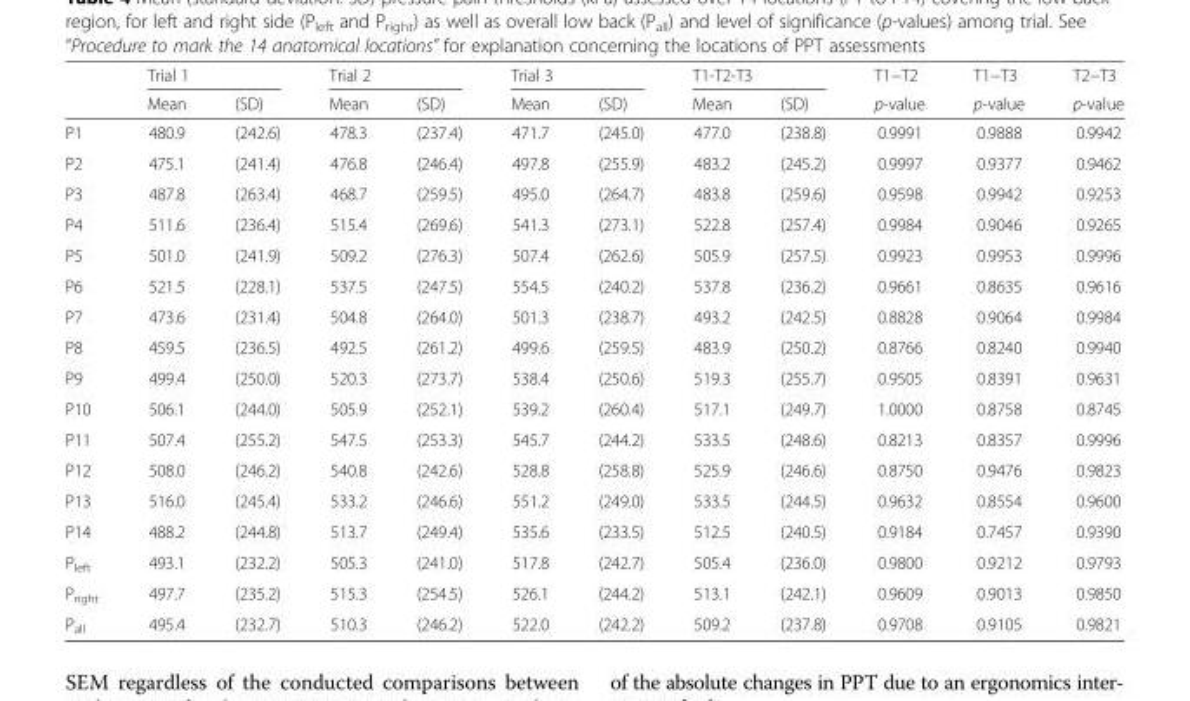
<table><thead><tr><td rowspan="2"></td><td colspan="2">Trial 1</td><td colspan="2">Trial 2</td><td colspan="2">Trial 3</td><td colspan="2">T1-T2-T3</td><td rowspan="2">T1−T2 p-value</td><td rowspan="2">T1−T3 p-value</td><td rowspan="2">T2−T3 p-value</td></tr><tr><td>Mean</td><td>(SD)</td><td>Mean</td><td>(SD)</td><td>Mean</td><td>(SD)</td><td>Mean</td><td>(SD)</td></tr></thead><tbody><tr><td>P1</td><td>480.9</td><td>(242.6)</td><td>478.3</td><td>(237.4)</td><td>471.7</td><td>(245.0)</td><td>477.0</td><td>(238.8)</td><td>0.9991</td><td>0.9888</td><td>0.9942</td></tr><tr><td>P2</td><td>475.1</td><td>(241.4)</td><td>476.8</td><td>(246.4)</td><td>497.8</td><td>(255.9)</td><td>483.2</td><td>(245.2)</td><td>0.9997</td><td>0.9377</td><td>0.9462</td></tr><tr><td>P3</td><td>487.8</td><td>(263.4)</td><td>468.7</td><td>(259.5)</td><td>495.0</td><td>(264.7)</td><td>483.8</td><td>(259.6)</td><td>0.9598</td><td>0.9942</td><td>0.9253</td></tr><tr><td>P4</td><td>511.6</td><td>(236.4)</td><td>515.4</td><td>(269.6)</td><td>541.3</td><td>(273.1)</td><td>522.8</td><td>(257.4)</td><td>0.9984</td><td>0.9046</td><td>0.9265</td></tr><tr><td>P5</td><td>501.0</td><td>(241.9)</td><td>509.2</td><td>(276.3)</td><td>507.4</td><td>(262.6)</td><td>505.9</td><td>(257.5)</td><td>0.9923</td><td>0.9953</td><td>0.9996</td></tr><tr><td>P6</td><td>521.5</td><td>(228.1)</td><td>537.5</td><td>(247.5)</td><td>554.5</td><td>(240.2)</td><td>537.8</td><td>(236.2)</td><td>0.9661</td><td>0.8635</td><td>0.9616</td></tr><tr><td>P7</td><td>473.6</td><td>(231.4)</td><td>504.8</td><td>(264.0)</td><td>501.3</td><td>(238.7)</td><td>493.2</td><td>(242.5)</td><td>0.8828</td><td>0.9064</td><td>0.9984</td></tr><tr><td>P8</td><td>459.5</td><td>(236.5)</td><td>492.5</td><td>(261.2)</td><td>499.6</td><td>(259.5)</td><td>483.9</td><td>(250.2)</td><td>0.8766</td><td>0.8240</td><td>0.9940</td></tr><tr><td>P9</td><td>499.4</td><td>(250.0)</td><td>520.3</td><td>(273.7)</td><td>538.4</td><td>(250.6)</td><td>519.3</td><td>(255.7)</td><td>0.9505</td><td>0.8391</td><td>0.9631</td></tr><tr><td>P10</td><td>506.1</td><td>(244.0)</td><td>505.9</td><td>(252.1)</td><td>539.2</td><td>(260.4)</td><td>517.1</td><td>(249.7)</td><td>1.0000</td><td>0.8758</td><td>0.8745</td></tr><tr><td>P11</td><td>507.4</td><td>(255.2)</td><td>547.5</td><td>(253.3)</td><td>545.7</td><td>(244.2)</td><td>533.5</td><td>(248.6)</td><td>0.8213</td><td>0.8357</td><td>0.9996</td></tr><tr><td>P12</td><td>508.0</td><td>(246.2)</td><td>540.8</td><td>(242.6)</td><td>528.8</td><td>(258.8)</td><td>525.9</td><td>(246.6)</td><td>0.8750</td><td>0.9476</td><td>0.9823</td></tr><tr><td>P13</td><td>516.0</td><td>(245.4)</td><td>533.2</td><td>(246.6)</td><td>551.2</td><td>(249.0)</td><td>533.5</td><td>(244.5)</td><td>0.9632</td><td>0.8554</td><td>0.9600</td></tr><tr><td>P14</td><td>488.2</td><td>(244.8)</td><td>513.7</td><td>(249.4)</td><td>535.6</td><td>(233.5)</td><td>512.5</td><td>(240.5)</td><td>0.9184</td><td>0.7457</td><td>0.9390</td></tr><tr><td>P<sub>left</sub></td><td>493.1</td><td>(232.2)</td><td>505.3</td><td>(241.0)</td><td>517.8</td><td>(242.7)</td><td>505.4</td><td>(236.0)</td><td>0.9800</td><td>0.9212</td><td>0.9793</td></tr><tr><td>P<sub>right</sub></td><td>497.7</td><td>(235.2)</td><td>515.3</td><td>(254.5)</td><td>526.1</td><td>(244.2)</td><td>513.1</td><td>(242.1)</td><td>0.9609</td><td>0.9013</td><td>0.9850</td></tr><tr><td>P<sub>all</sub></td><td>495.4</td><td>(232.7)</td><td>510.3</td><td>(246.2)</td><td>522.0</td><td>(242.2)</td><td>509.2</td><td>(237.8)</td><td>0.9708</td><td>0.9105</td><td>0.9821</td></tr></tbody></table>